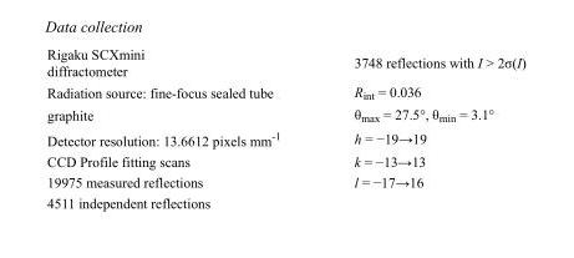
<table><tbody><tr><td>Rigaku SCXmini diffractometer</td><td>3748 reflections with I &gt; 2σ(I)</td></tr><tr><td>Radiation source: fine-focus sealed tube</td><td>R<sub>int</sub> = 0.036</td></tr><tr><td>graphite</td><td>θ<sub>max</sub> = 27.5°, θ<sub>min</sub> = 3.1°</td></tr><tr><td>Detector resolution: 13.6612 pixels mm<sup>-1</sup></td><td>h = −19→19</td></tr><tr><td>CCD Profile fitting scans</td><td>k = −13→13</td></tr><tr><td>19975 measured reflections</td><td>l = −17→16</td></tr><tr><td>4511 independent reflections</td><td></td></tr></tbody></table>